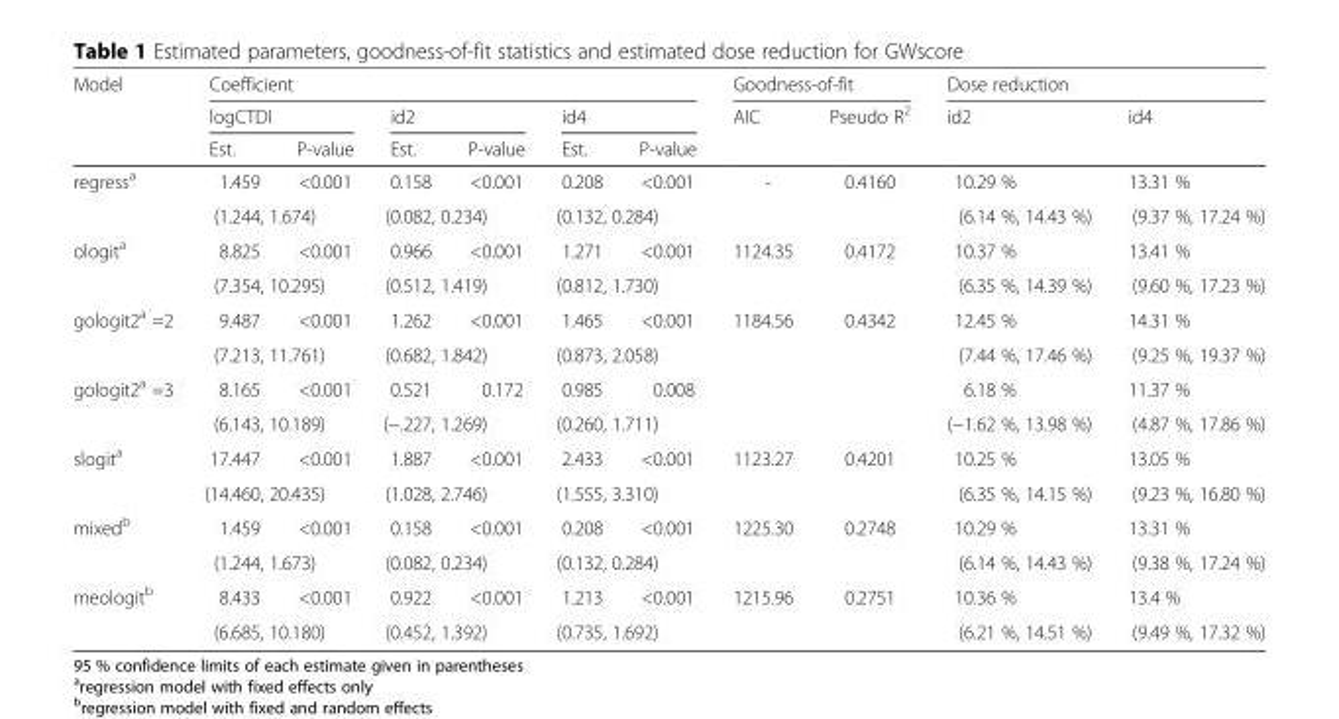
<table><thead><tr><td rowspan="3">Model</td><td colspan="6">Coefficient</td><td colspan="2">Goodness-of-fit</td><td colspan="2">Dose reduction</td></tr><tr><td colspan="2">logCTDI</td><td colspan="2">id2</td><td colspan="2">id4</td><td rowspan="2">AIC</td><td rowspan="2">Pseudo R<sup>2</sup></td><td rowspan="2">id2</td><td rowspan="2">id4</td></tr><tr><td>Est.</td><td>P-value</td><td>Est.</td><td>P-value</td><td>Est.</td><td>P-value</td></tr></thead><tbody><tr><td rowspan="2">regress<sup>a</sup></td><td>1.459</td><td>&lt;0.001</td><td>0.158</td><td>&lt;0.001</td><td>0.208</td><td>&lt;0.001</td><td rowspan="2">-</td><td rowspan="2">0.4160</td><td>10.29 %</td><td>13.31 %</td></tr><tr><td colspan="2">(1.244, 1.674)</td><td colspan="2">(0.082, 0.234)</td><td colspan="2">(0.132, 0.284)</td><td>(6.14 %, 14.43 %)</td><td>(9.37 %, 17.24 %)</td></tr><tr><td rowspan="2">ologit<sup>a</sup></td><td>8.825</td><td>&lt;0.001</td><td>0.966</td><td>&lt;0.001</td><td>1.271</td><td>&lt;0.001</td><td rowspan="2">1124.35</td><td rowspan="2">0.4172</td><td>10.37 %</td><td>13.41 %</td></tr><tr><td colspan="2">(7.354, 10.295)</td><td colspan="2">(0.512, 1.419)</td><td colspan="2">(0.812, 1.730)</td><td>(6.35 %, 14.39 %)</td><td>(9.60 %, 17.23 %)</td></tr><tr><td rowspan="2">gologit2<sup>a</sup> =2</td><td>9.487</td><td>&lt;0.001</td><td>1.262</td><td>&lt;0.001</td><td>1.465</td><td>&lt;0.001</td><td rowspan="4">1184.56</td><td rowspan="4">0.4342</td><td>12.45 %</td><td>14.31 %</td></tr><tr><td colspan="2">(7.213, 11.761)</td><td colspan="2">(0.682, 1.842)</td><td colspan="2">(0.873, 2.058)</td><td>(7.44 %, 17.46 %)</td><td>(9.25 %, 19.37 %)</td></tr><tr><td rowspan="2">gologit2<sup>a</sup> =3</td><td>8.165</td><td>&lt;0.001</td><td>0.521</td><td>0.172</td><td>0.985</td><td>0.008</td><td>6.18 %</td><td>11.37 %</td></tr><tr><td colspan="2">(6.143, 10.189)</td><td colspan="2">(−.227, 1.269)</td><td colspan="2">(0.260, 1.711)</td><td>(−1.62 %, 13.98 %)</td><td>(4.87 %, 17.86 %)</td></tr><tr><td rowspan="2">slogit<sup>a</sup></td><td>17.447</td><td>&lt;0.001</td><td>1.887</td><td>&lt;0.001</td><td>2.433</td><td>&lt;0.001</td><td rowspan="2">1123.27</td><td rowspan="2">0.4201</td><td>10.25 %</td><td>13.05 %</td></tr><tr><td colspan="2">(14.460, 20.435)</td><td colspan="2">(1.028, 2.746)</td><td colspan="2">(1.555, 3.310)</td><td>(6.35 %, 14.15 %)</td><td>(9.23 %, 16.80 %)</td></tr><tr><td rowspan="2">mixed<sup>b</sup></td><td>1.459</td><td>&lt;0.001</td><td>0.158</td><td>&lt;0.001</td><td>0.208</td><td>&lt;0.001</td><td rowspan="2">1225.30</td><td rowspan="2">0.2748</td><td>10.29 %</td><td>13.31 %</td></tr><tr><td colspan="2">(1.244, 1.673)</td><td colspan="2">(0.082, 0.234)</td><td colspan="2">(0.132, 0.284)</td><td>(6.14 %, 14.43 %)</td><td>(9.38 %, 17.24 %)</td></tr><tr><td rowspan="2">meologit<sup>b</sup></td><td>8.433</td><td>&lt;0.001</td><td>0.922</td><td>&lt;0.001</td><td>1.213</td><td>&lt;0.001</td><td rowspan="2">1215.96</td><td rowspan="2">0.2751</td><td>10.36 %</td><td>13.4 %</td></tr><tr><td colspan="2">(6.685, 10.180)</td><td colspan="2">(0.452, 1.392)</td><td colspan="2">(0.735, 1.692)</td><td>(6.21 %, 14.51 %)</td><td>(9.49 %, 17.32 %)</td></tr></tbody></table>